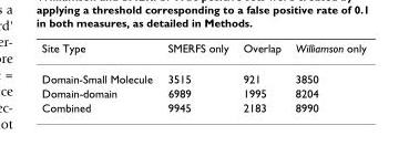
<table><thead><tr><td>Site Type</td><td>SMERFS only</td><td>Overlap</td><td>Williamson only</td></tr></thead><tbody><tr><td>Domain-Small Molecule</td><td>3515</td><td>921</td><td>3850</td></tr><tr><td>Domain-domain</td><td>6989</td><td>1995</td><td>8204</td></tr><tr><td>Combined</td><td>9945</td><td>2183</td><td>8990</td></tr></tbody></table>